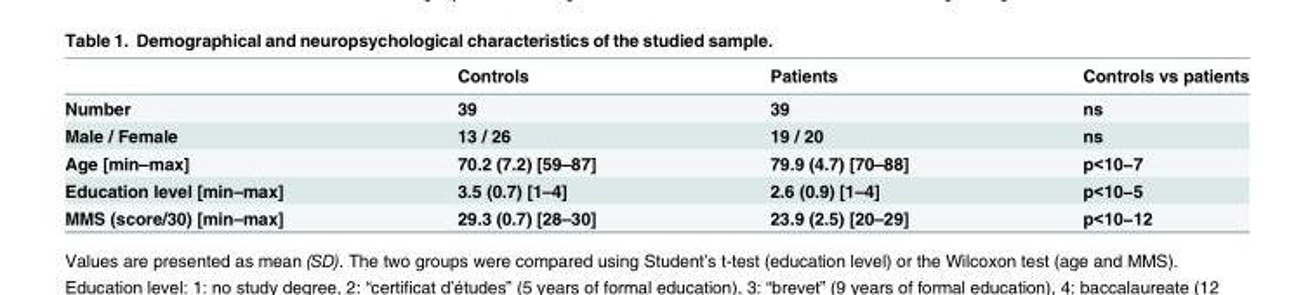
<table><thead><tr><td></td><td>Controls</td><td>Patients</td><td>Controls vs patients</td></tr></thead><tbody><tr><td>Number</td><td>39</td><td>39</td><td>ns</td></tr><tr><td>Male / Female</td><td>13 / 26</td><td>19 / 20</td><td>ns</td></tr><tr><td>Age [min–max]</td><td>70.2 (7.2) [59–87]</td><td>79.9 (4.7) [70–88]</td><td>p&lt;10−7</td></tr><tr><td>Education level [min–max]</td><td>3.5 (0.7) [1–4]</td><td>2.6 (0.9) [1–4]</td><td>p&lt;10−5</td></tr><tr><td>MMS (score/30) [min–max]</td><td>29.3 (0.7) [28–30]</td><td>23.9 (2.5) [20–29]</td><td>p&lt;10−12</td></tr></tbody></table>